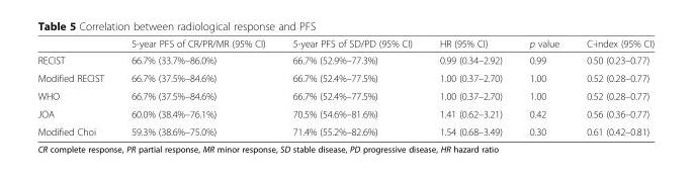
<table><thead><tr><td></td><td>5-year PFS of CR/PR/MR (95% CI)</td><td>5-year PFS of SD/PD (95% CI)</td><td>HR (95% CI)</td><td>p value</td><td>C-index (95% CI)</td></tr></thead><tbody><tr><td>RECIST</td><td>66.7% (33.7%–86.0%)</td><td>66.7% (52.9%–77.3%)</td><td>0.99 (0.34–2.92)</td><td>0.99</td><td>0.50 (0.23–0.77)</td></tr><tr><td>Modified RECIST</td><td>66.7% (37.5%–84.6%)</td><td>66.7% (52.4%–77.5%)</td><td>1.00 (0.37–2.70)</td><td>1.00</td><td>0.52 (0.28–0.77)</td></tr><tr><td>WHO</td><td>66.7% (37.5%–84.6%)</td><td>66.7% (52.4%–77.5%)</td><td>1.00 (0.37–2.70)</td><td>1.00</td><td>0.52 (0.28–0.77)</td></tr><tr><td>JOA</td><td>60.0% (38.4%–76.1%)</td><td>70.5% (54.6%–81.6%)</td><td>1.41 (0.62–3.21)</td><td>0.42</td><td>0.56 (0.36–0.77)</td></tr><tr><td>Modified Choi</td><td>59.3% (38.6%–75.0%)</td><td>71.4% (55.2%–82.6%)</td><td>1.54 (0.68–3.49)</td><td>0.30</td><td>0.61 (0.42–0.81)</td></tr></tbody></table>